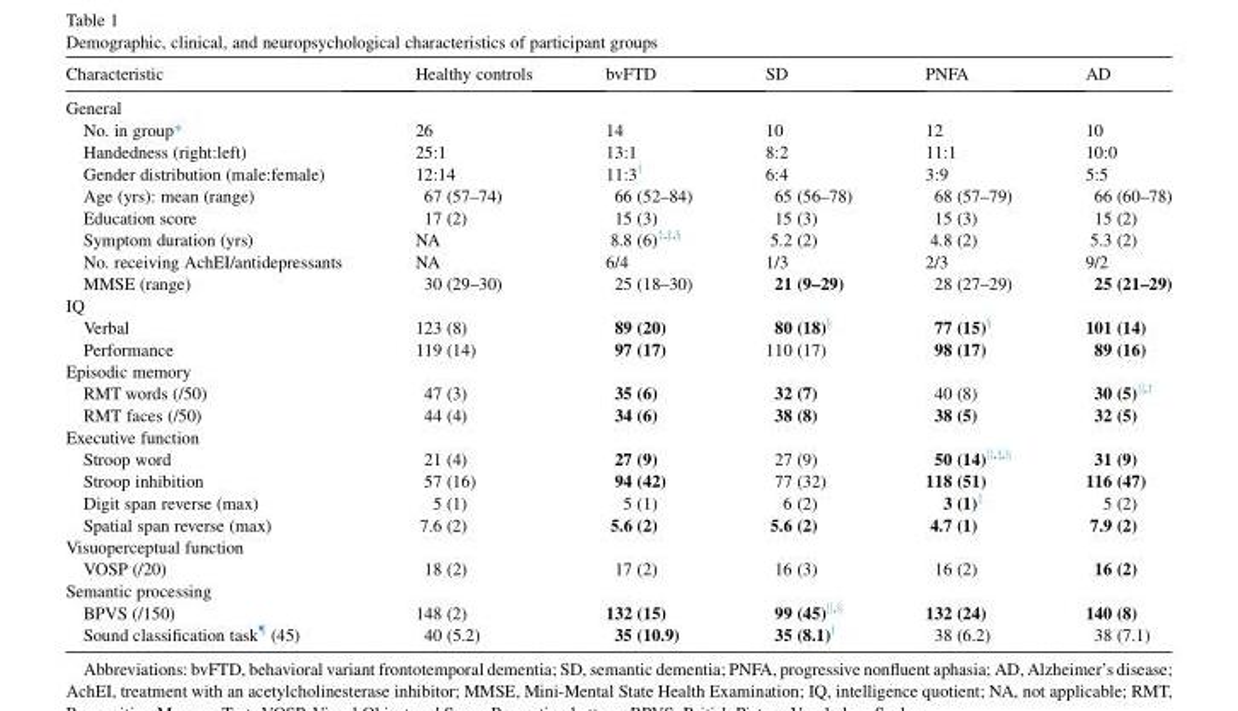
<table><thead><tr><td>Characteristic</td><td>Healthy controls</td><td>bvFTD</td><td>SD</td><td>PNFA</td><td>AD</td></tr></thead><tbody><tr><td colspan="6">General</td></tr><tr><td>No. in group*</td><td>26</td><td>14</td><td>10</td><td>12</td><td>10</td></tr><tr><td>Handedness (right:left)</td><td>25:1</td><td>13:1</td><td>8:2</td><td>11:1</td><td>10:0</td></tr><tr><td>Gender distribution (male:female)</td><td>12:14</td><td>11:3†</td><td>6:4</td><td>3:9</td><td>5:5</td></tr><tr><td>Age (yrs): mean (range)</td><td>67 (57–74)</td><td>66 (52–84)</td><td>65 (56–78)</td><td>68 (57–79)</td><td>66 (60–78)</td></tr><tr><td>Education score</td><td>17 (2)</td><td>15 (3)</td><td>15 (3)</td><td>15 (3)</td><td>15 (2)</td></tr><tr><td>Symptom duration (yrs)</td><td>NA</td><td>8.8 (6)†<sup>,</sup>‡<sup>,</sup>§</td><td>5.2 (2)</td><td>4.8 (2)</td><td>5.3 (2)</td></tr><tr><td>No. receiving AchEI/antidepressants</td><td>NA</td><td>6/4</td><td>1/3</td><td>2/3</td><td>9/2</td></tr><tr><td>MMSE (range)</td><td>30 (29–30)</td><td>25 (18–30)</td><td>21 (9–29)</td><td>28 (27–29)</td><td>25 (21–29)</td></tr><tr><td colspan="6">IQ</td></tr><tr><td>Verbal</td><td>123 (8)</td><td>89 (20)</td><td>80 (18)§</td><td>77 (15)§</td><td>101 (14)</td></tr><tr><td>Performance</td><td>119 (14)</td><td>97 (17)</td><td>110 (17)</td><td>98 (17)</td><td>89 (16)</td></tr><tr><td colspan="6">Episodic memory</td></tr><tr><td>RMT words (/50)</td><td>47 (3)</td><td>35 (6)</td><td>32 (7)</td><td>40 (8)</td><td>30 (5)||<sup>,</sup>†</td></tr><tr><td>RMT faces (/50)</td><td>44 (4)</td><td>34 (6)</td><td>38 (8)</td><td>38 (5)</td><td>32 (5)</td></tr><tr><td colspan="6">Executive function</td></tr><tr><td>Stroop word</td><td>21 (4)</td><td>27 (9)</td><td>27 (9)</td><td>50 (14)||<sup>,</sup>‡<sup>,</sup>§</td><td>31 (9)</td></tr><tr><td>Stroop inhibition</td><td>57 (16)</td><td>94 (42)</td><td>77 (32)</td><td>118 (51)</td><td>116 (47)</td></tr><tr><td>Digit span reverse (max)</td><td>5 (1)</td><td>5 (1)</td><td>6 (2)</td><td>3 (1)‡</td><td>5 (2)</td></tr><tr><td>Spatial span reverse (max)</td><td>7.6 (2)</td><td>5.6 (2)</td><td>5.6 (2)</td><td>4.7 (1)</td><td>7.9 (2)</td></tr><tr><td colspan="6">Visuoperceptual function</td></tr><tr><td>VOSP (/20)</td><td>18 (2)</td><td>17 (2)</td><td>16 (3)</td><td>16 (2)</td><td>16 (2)</td></tr><tr><td colspan="6">Semantic processing</td></tr><tr><td>BPVS (/150)</td><td>148 (2)</td><td>132 (15)</td><td>99 (45)||<sup>,</sup>§</td><td>132 (24)</td><td>140 (8)</td></tr><tr><td>Sound classification task¶ (45)</td><td>40 (5.2)</td><td>35 (10.9)</td><td>35 (8.1)†</td><td>38 (6.2)</td><td>38 (7.1)</td></tr></tbody></table>